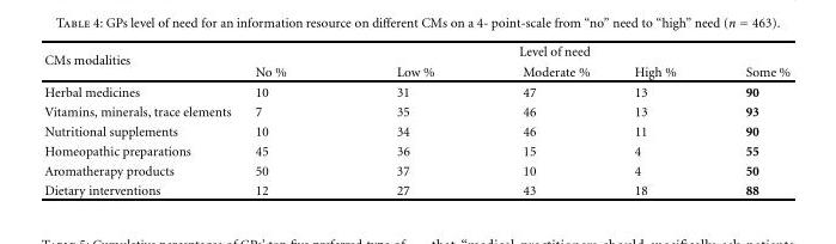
<table><thead><tr><td rowspan="2">CMs modalities</td><td colspan="5">Level of need</td></tr><tr><td>No %</td><td>Low %</td><td>Moderate %</td><td>High %</td><td>Some %</td></tr></thead><tbody><tr><td>Herbal medicines</td><td>10</td><td>31</td><td>47</td><td>13</td><td>90</td></tr><tr><td>Vitamins, minerals, trace elements</td><td>7</td><td>35</td><td>46</td><td>13</td><td>93</td></tr><tr><td>Nutritional supplements</td><td>10</td><td>34</td><td>46</td><td>11</td><td>90</td></tr><tr><td>Homeopathic preparations</td><td>45</td><td>36</td><td>15</td><td>4</td><td>55</td></tr><tr><td>Aromatherapy products</td><td>50</td><td>37</td><td>10</td><td>4</td><td>50</td></tr><tr><td>Dietary interventions</td><td>12</td><td>27</td><td>43</td><td>18</td><td>88</td></tr></tbody></table>